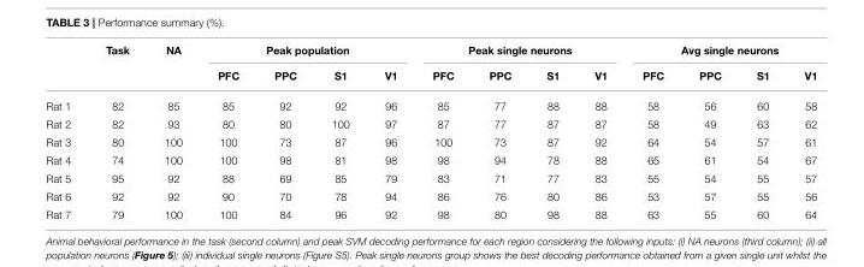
<table><thead><tr><td rowspan="2"></td><td rowspan="2">Task</td><td rowspan="2">NA</td><td colspan="4">Peak population</td><td colspan="4">Peak single neurons</td><td colspan="4">Avg single neurons</td></tr><tr><td>PFC</td><td>PPC</td><td>S1</td><td>V1</td><td>PFC</td><td>PPC</td><td>S1</td><td>V1</td><td>PFC</td><td>PPC</td><td>S1</td><td>V1</td></tr></thead><tbody><tr><td>Rat 1</td><td>82</td><td>85</td><td>85</td><td>92</td><td>92</td><td>96</td><td>85</td><td>77</td><td>88</td><td>88</td><td>58</td><td>56</td><td>60</td><td>58</td></tr><tr><td>Rat 2</td><td>82</td><td>93</td><td>80</td><td>80</td><td>100</td><td>97</td><td>87</td><td>77</td><td>87</td><td>87</td><td>58</td><td>49</td><td>63</td><td>62</td></tr><tr><td>Rat 3</td><td>80</td><td>100</td><td>100</td><td>73</td><td>87</td><td>96</td><td>100</td><td>73</td><td>87</td><td>92</td><td>64</td><td>54</td><td>57</td><td>61</td></tr><tr><td>Rat 4</td><td>74</td><td>100</td><td>100</td><td>98</td><td>81</td><td>98</td><td>98</td><td>94</td><td>78</td><td>88</td><td>65</td><td>61</td><td>54</td><td>67</td></tr><tr><td>Rat 5</td><td>95</td><td>92</td><td>88</td><td>69</td><td>85</td><td>79</td><td>83</td><td>71</td><td>77</td><td>83</td><td>55</td><td>54</td><td>55</td><td>57</td></tr><tr><td>Rat 6</td><td>92</td><td>92</td><td>90</td><td>70</td><td>78</td><td>94</td><td>86</td><td>76</td><td>80</td><td>86</td><td>53</td><td>57</td><td>55</td><td>56</td></tr><tr><td>Rat 7</td><td>79</td><td>100</td><td>100</td><td>84</td><td>96</td><td>92</td><td>98</td><td>80</td><td>98</td><td>88</td><td>63</td><td>55</td><td>60</td><td>64</td></tr></tbody></table>